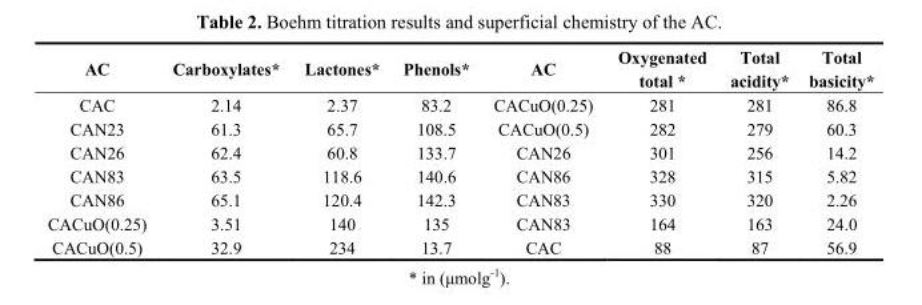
<table><thead><tr><td>AC</td><td>Carboxylates*</td><td>Lactones*</td><td>Phenols*</td><td>AC</td><td>Oxygenated total *</td><td>Total acidity*</td><td>Total basicity*</td></tr></thead><tbody><tr><td>CAC</td><td>2.14</td><td>2.37</td><td>83.2</td><td>CACuO(0.25)</td><td>281</td><td>281</td><td>86.8</td></tr><tr><td>CAN23</td><td>61.3</td><td>65.7</td><td>108.5</td><td>CACuO(0.5)</td><td>282</td><td>279</td><td>60.3</td></tr><tr><td>CAN26</td><td>62.4</td><td>60.8</td><td>133.7</td><td>CAN26</td><td>301</td><td>256</td><td>14.2</td></tr><tr><td>CAN83</td><td>63.5</td><td>118.6</td><td>140.6</td><td>CAN86</td><td>328</td><td>315</td><td>5.82</td></tr><tr><td>CAN86</td><td>65.1</td><td>120.4</td><td>142.3</td><td>CAN83</td><td>330</td><td>320</td><td>2.26</td></tr><tr><td>CACuO(0.25)</td><td>3.51</td><td>140</td><td>135</td><td>CAN83</td><td>164</td><td>163</td><td>24.0</td></tr><tr><td>CACuO(0.5)</td><td>32.9</td><td>234</td><td>13.7</td><td>CAC</td><td>88</td><td>87</td><td>56.9</td></tr></tbody></table>